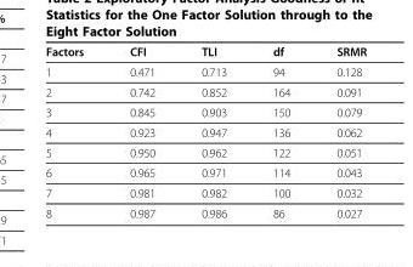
<table><thead><tr><td>Factors</td><td>CFI</td><td>TLI</td><td>df</td><td>SRMR</td></tr></thead><tbody><tr><td>1</td><td>0.471</td><td>0.713</td><td>94</td><td>0.128</td></tr><tr><td>2</td><td>0.742</td><td>0.852</td><td>164</td><td>0.091</td></tr><tr><td>3</td><td>0.845</td><td>0.903</td><td>150</td><td>0.079</td></tr><tr><td>4</td><td>0.923</td><td>0.947</td><td>136</td><td>0.062</td></tr><tr><td>5</td><td>0.950</td><td>0.962</td><td>122</td><td>0.051</td></tr><tr><td>6</td><td>0.965</td><td>0.971</td><td>114</td><td>0.043</td></tr><tr><td>7</td><td>0.981</td><td>0.982</td><td>100</td><td>0.032</td></tr><tr><td>8</td><td>0.987</td><td>0.986</td><td>86</td><td>0.027</td></tr></tbody></table>